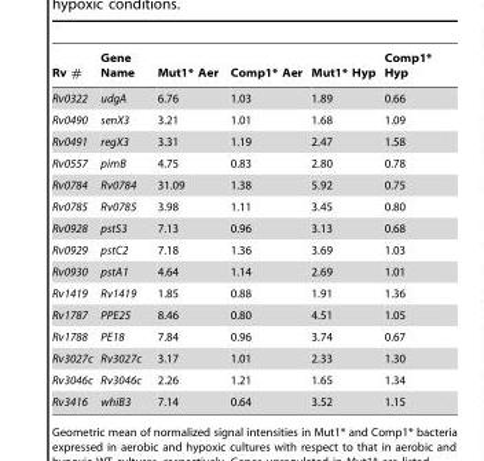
<table><thead><tr><td>Rv #</td><td>Gene Name</td><td>Mut1* Aer</td><td>Comp1* Aer</td><td>Mut1* Hyp</td><td>Comp1* Hyp</td></tr></thead><tbody><tr><td>Rv0322</td><td>udgA</td><td>6.76</td><td>1.03</td><td>1.89</td><td>0.66</td></tr><tr><td>Rv0490</td><td>senX3</td><td>3.21</td><td>1.01</td><td>1.68</td><td>1.09</td></tr><tr><td>Rv0491</td><td>regX3</td><td>3.31</td><td>1.19</td><td>2.47</td><td>1.58</td></tr><tr><td>Rv0557</td><td>pimB</td><td>4.75</td><td>0.83</td><td>2.80</td><td>0.78</td></tr><tr><td>Rv0784</td><td>Rv0784</td><td>31.09</td><td>1.38</td><td>5.92</td><td>0.75</td></tr><tr><td>Rv0785</td><td>Rv0785</td><td>3.98</td><td>1.11</td><td>3.45</td><td>0.80</td></tr><tr><td>Rv0928</td><td>pstS3</td><td>7.13</td><td>0.96</td><td>3.13</td><td>0.68</td></tr><tr><td>Rv0929</td><td>pstC2</td><td>7.18</td><td>1.36</td><td>3.69</td><td>1.03</td></tr><tr><td>Rv0930</td><td>pstA1</td><td>4.64</td><td>1.14</td><td>2.69</td><td>1.01</td></tr><tr><td>Rv1419</td><td>Rv1419</td><td>1.85</td><td>0.88</td><td>1.91</td><td>1.36</td></tr><tr><td>Rv1787</td><td>PPE25</td><td>8.46</td><td>0.80</td><td>4.51</td><td>1.05</td></tr><tr><td>Rv1788</td><td>PE18</td><td>7.84</td><td>0.96</td><td>3.74</td><td>0.67</td></tr><tr><td>Rv3027c</td><td>Rv3027c</td><td>3.17</td><td>1.01</td><td>2.33</td><td>1.30</td></tr><tr><td>Rv3046c</td><td>Rv3046c</td><td>2.26</td><td>1.21</td><td>1.65</td><td>1.34</td></tr><tr><td>Rv3416</td><td>whiB3</td><td>7.14</td><td>0.64</td><td>3.52</td><td>1.15</td></tr></tbody></table>